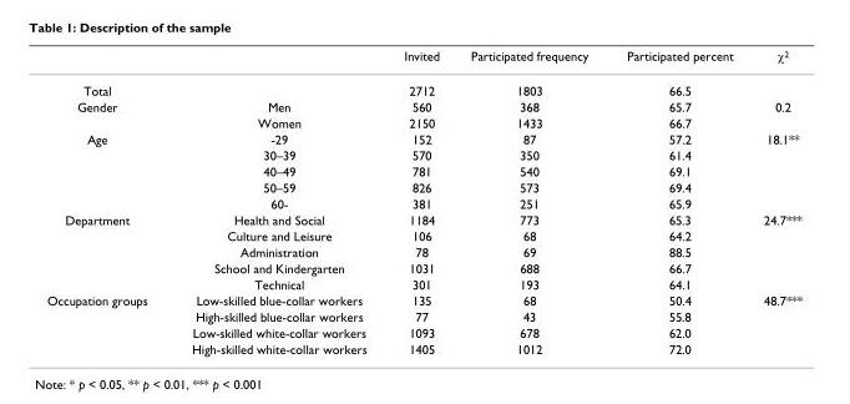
<table><thead><tr><td></td><td></td><td>Invited</td><td>Participated frequency</td><td>Participated percent</td><td>χ<sup>2</sup></td></tr></thead><tbody><tr><td>Total</td><td></td><td>2712</td><td>1803</td><td>66.5</td><td></td></tr><tr><td rowspan="2">Gender</td><td>Men</td><td>560</td><td>368</td><td>65.7</td><td>0.2</td></tr><tr><td>Women</td><td>2150</td><td>1433</td><td>66.7</td><td></td></tr><tr><td rowspan="5">Age</td><td>-29</td><td>152</td><td>87</td><td>57.2</td><td>18.1**</td></tr><tr><td>30–39</td><td>570</td><td>350</td><td>61.4</td><td></td></tr><tr><td>40–49</td><td>781</td><td>540</td><td>69.1</td><td></td></tr><tr><td>50–59</td><td>826</td><td>573</td><td>69.4</td><td></td></tr><tr><td>60-</td><td>381</td><td>251</td><td>65.9</td><td></td></tr><tr><td rowspan="5">Department</td><td>Health and Social</td><td>1184</td><td>773</td><td>65.3</td><td>24.7***</td></tr><tr><td>Culture and Leisure</td><td>106</td><td>68</td><td>64.2</td><td></td></tr><tr><td>Administration</td><td>78</td><td>69</td><td>88.5</td><td></td></tr><tr><td>School and Kindergarten</td><td>1031</td><td>688</td><td>66.7</td><td></td></tr><tr><td>Technical</td><td>301</td><td>193</td><td>64.1</td><td></td></tr><tr><td rowspan="4">Occupation groups</td><td>Low-skilled blue-collar workers</td><td>135</td><td>68</td><td>50.4</td><td>48.7***</td></tr><tr><td>High-skilled blue-collar workers</td><td>77</td><td>43</td><td>55.8</td><td></td></tr><tr><td>Low-skilled white-collar workers</td><td>1093</td><td>678</td><td>62.0</td><td></td></tr><tr><td>High-skilled white-collar workers</td><td>1405</td><td>1012</td><td>72.0</td><td></td></tr></tbody></table>